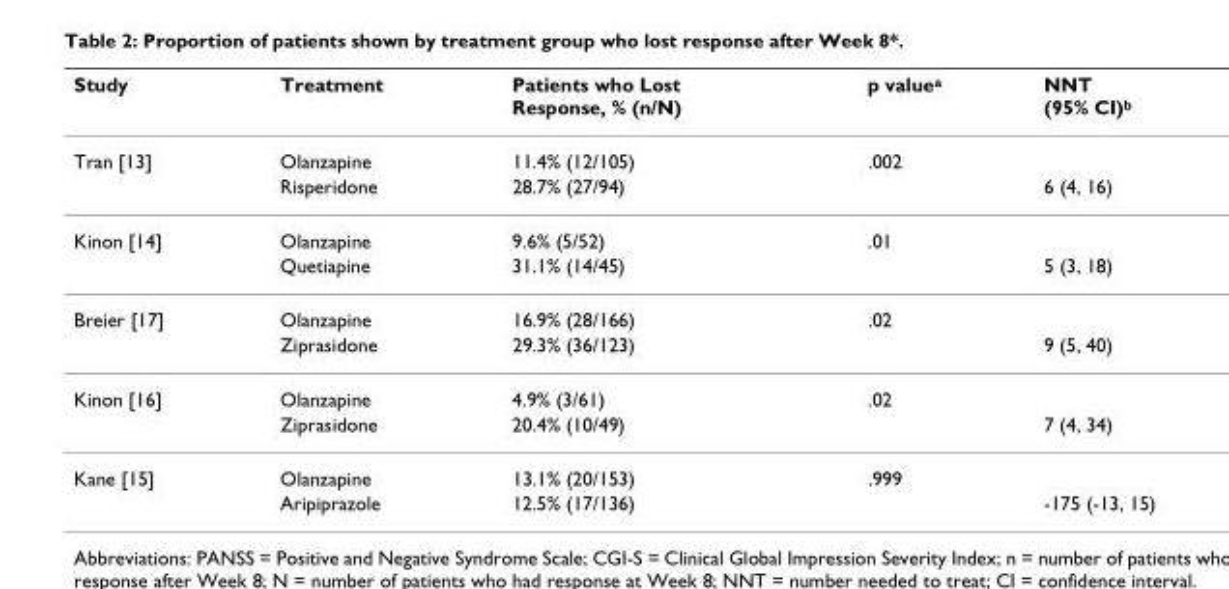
<table><thead><tr><td>Study</td><td>Treatment</td><td>Patients who Lost Response, % (n/N)</td><td>p value<sup>a</sup></td><td>NNT (95% CI)<sup>b</sup></td></tr></thead><tbody><tr><td rowspan="2">Tran [13]</td><td>Olanzapine</td><td>11.4% (12/105)</td><td>.002</td><td></td></tr><tr><td>Risperidone</td><td>28.7% (27/94)</td><td></td><td>6 (4, 16)</td></tr><tr><td rowspan="2">Kinon [14]</td><td>Olanzapine</td><td>9.6% (5/52)</td><td>.01</td><td></td></tr><tr><td>Quetiapine</td><td>31.1% (14/45)</td><td></td><td>5 (3, 18)</td></tr><tr><td rowspan="2">Breier [17]</td><td>Olanzapine</td><td>16.9% (28/166)</td><td>.02</td><td></td></tr><tr><td>Ziprasidone</td><td>29.3% (36/123)</td><td></td><td>9 (5, 40)</td></tr><tr><td rowspan="2">Kinon [16]</td><td>Olanzapine</td><td>4.9% (3/61)</td><td>.02</td><td></td></tr><tr><td>Ziprasidone</td><td>20.4% (10/49)</td><td></td><td>7 (4, 34)</td></tr><tr><td rowspan="2">Kane [15]</td><td>Olanzapine</td><td>13.1% (20/153)</td><td>.999</td><td></td></tr><tr><td>Aripiprazole</td><td>12.5% (17/136)</td><td></td><td>-175 (-13, 15)</td></tr></tbody></table>